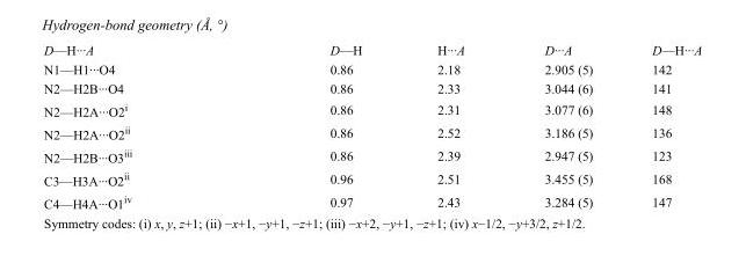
<table><tbody><tr><td>D—H···A</td><td>D—H</td><td>H···A</td><td>D···A</td><td>D—H···A</td></tr><tr><td>N1—H1···O4</td><td>0.86</td><td>2.18</td><td>2.905 (5)</td><td>142</td></tr><tr><td>N2—H2B···O4</td><td>0.86</td><td>2.33</td><td>3.044 (6)</td><td>141</td></tr><tr><td>N2—H2A···O2<sup>i</sup></td><td>0.86</td><td>2.31</td><td>3.077 (6)</td><td>148</td></tr><tr><td>N2—H2A···O2<sup>ii</sup></td><td>0.86</td><td>2.52</td><td>3.186 (5)</td><td>136</td></tr><tr><td>N2—H2B···O3<sup>iii</sup></td><td>0.86</td><td>2.39</td><td>2.947 (5)</td><td>123</td></tr><tr><td>C3—H3A···O2<sup>ii</sup></td><td>0.96</td><td>2.51</td><td>3.455 (5)</td><td>168</td></tr><tr><td>C4—H4A···O1<sup>iv</sup></td><td>0.97</td><td>2.43</td><td>3.284 (5)</td><td>147</td></tr></tbody></table>